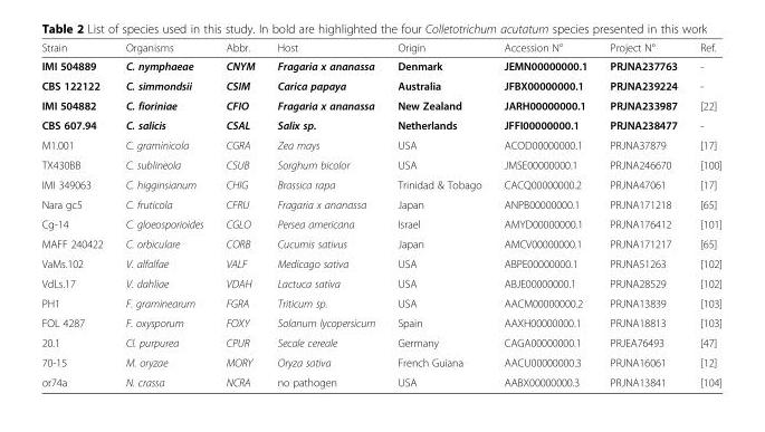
<table><thead><tr><td>Strain</td><td>Organisms</td><td>Abbr.</td><td>Host</td><td>Origin</td><td>Accession N°</td><td>Project N°</td><td>Ref.</td></tr></thead><tbody><tr><td>IMI 504889</td><td>C. nymphaeae</td><td>CNYM</td><td>Fragaria x ananassa</td><td>Denmark</td><td>JEMN00000000.1</td><td>PRJNA237763</td><td>-</td></tr><tr><td>CBS 122122</td><td>C. simmondsii</td><td>CSIM</td><td>Carica papaya</td><td>Australia</td><td>JFBX00000000.1</td><td>PRJNA239224</td><td>-</td></tr><tr><td>IMI 504882</td><td>C. fioriniae</td><td>CFIO</td><td>Fragaria x ananassa</td><td>New Zealand</td><td>JARH00000000.1</td><td>PRJNA233987</td><td>[22]</td></tr><tr><td>CBS 607.94</td><td>C. salicis</td><td>CSAL</td><td>Salix sp.</td><td>Netherlands</td><td>JFFI00000000.1</td><td>PRJNA238477</td><td>-</td></tr><tr><td>M1.001</td><td>C. graminicola</td><td>CGRA</td><td>Zea mays</td><td>USA</td><td>ACOD00000000.1</td><td>PRJNA37879</td><td>[17]</td></tr><tr><td>TX430BB</td><td>C. sublineola</td><td>CSUB</td><td>Sorghum bicolor</td><td>USA</td><td>JMSE00000000.1</td><td>PRJNA246670</td><td>[100]</td></tr><tr><td>IMI 349063</td><td>C. higginsianum</td><td>CHIG</td><td>Brassica rapa</td><td>Trinidad &amp; Tobago</td><td>CACQ00000000.2</td><td>PRJNA47061</td><td>[17]</td></tr><tr><td>Nara gc5</td><td>C. fruticola</td><td>CFRU</td><td>Fragaria x ananassa</td><td>Japan</td><td>ANPB00000000.1</td><td>PRJNA171218</td><td>[65]</td></tr><tr><td>Cg-14</td><td>C. gloeosporioides</td><td>CGLO</td><td>Persea americana</td><td>Israel</td><td>AMYD00000000.1</td><td>PRJNA176412</td><td>[101]</td></tr><tr><td>MAFF 240422</td><td>C. orbiculare</td><td>CORB</td><td>Cucumis sativus</td><td>Japan</td><td>AMCV00000000.1</td><td>PRJNA171217</td><td>[65]</td></tr><tr><td>VaMs.102</td><td>V. alfalfae</td><td>VALF</td><td>Medicago sativa</td><td>USA</td><td>ABPE00000000.1</td><td>PRJNA51263</td><td>[102]</td></tr><tr><td>VdLs.17</td><td>V. dahliae</td><td>VDAH</td><td>Lactuca sativa</td><td>USA</td><td>ABJE00000000.1</td><td>PRJNA28529</td><td>[102]</td></tr><tr><td>PH1</td><td>F. graminearum</td><td>FGRA</td><td>Triticum sp.</td><td>USA</td><td>AACM00000000.2</td><td>PRJNA13839</td><td>[103]</td></tr><tr><td>FOL 4287</td><td>F. oxysporum</td><td>FOXY</td><td>Solanum lycopersicum</td><td>Spain</td><td>AAXH00000000.1</td><td>PRJNA18813</td><td>[103]</td></tr><tr><td>20.1</td><td>Cl. purpurea</td><td>CPUR</td><td>Secale cereale</td><td>Germany</td><td>CAGA00000000.1</td><td>PRJEA76493</td><td>[47]</td></tr><tr><td>70-15</td><td>M. oryzae</td><td>MORY</td><td>Oryza sativa</td><td>French Guiana</td><td>AACU00000000.3</td><td>PRJNA16061</td><td>[12]</td></tr><tr><td>or74a</td><td>N. crassa</td><td>NCRA</td><td>no pathogen</td><td>USA</td><td>AABX00000000.3</td><td>PRJNA13841</td><td>[104]</td></tr></tbody></table>